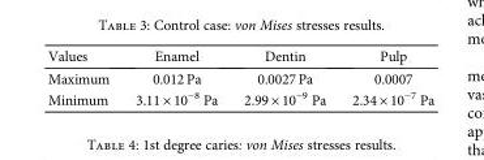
<table><thead><tr><td>Values</td><td>Enamel</td><td>Dentin</td><td>Pulp</td></tr></thead><tbody><tr><td>Maximum</td><td>0.012 Pa</td><td>0.0027 Pa</td><td>0.0007</td></tr><tr><td>Minimum</td><td>3.11 × 10<sup>−8</sup> Pa</td><td>2.99 × 10<sup>−9</sup> Pa</td><td>2.34 × 10<sup>−7</sup> Pa</td></tr></tbody></table>